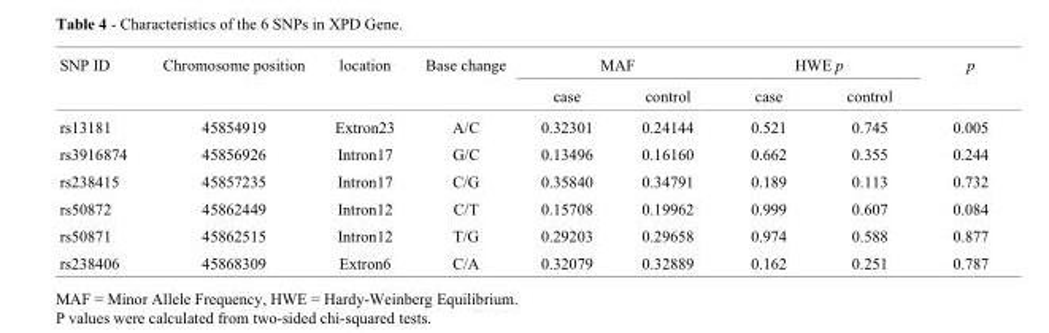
<table><thead><tr><td rowspan="2">SNP ID</td><td rowspan="2">Chromosome position</td><td rowspan="2">location</td><td rowspan="2">Base change</td><td colspan="2">MAF</td><td colspan="2">HWE p</td><td rowspan="2">p</td></tr><tr><td>case</td><td>control</td><td>case</td><td>control</td></tr></thead><tbody><tr><td>rs13181</td><td>45854919</td><td>Extron23</td><td>A/C</td><td>0.32301</td><td>0.24144</td><td>0.521</td><td>0.745</td><td>0.005</td></tr><tr><td>rs3916874</td><td>45856926</td><td>Intron17</td><td>G/C</td><td>0.13496</td><td>0.16160</td><td>0.662</td><td>0.355</td><td>0.244</td></tr><tr><td>rs238415</td><td>45857235</td><td>Intron17</td><td>C/G</td><td>0.35840</td><td>0.34791</td><td>0.189</td><td>0.113</td><td>0.732</td></tr><tr><td>rs50872</td><td>45862449</td><td>Intron12</td><td>C/T</td><td>0.15708</td><td>0.19962</td><td>0.999</td><td>0.607</td><td>0.084</td></tr><tr><td>rs50871</td><td>45862515</td><td>Intron12</td><td>T/G</td><td>0.29203</td><td>0.29658</td><td>0.974</td><td>0.588</td><td>0.877</td></tr><tr><td>rs238406</td><td>45868309</td><td>Extron6</td><td>C/A</td><td>0.32079</td><td>0.32889</td><td>0.162</td><td>0.251</td><td>0.787</td></tr></tbody></table>